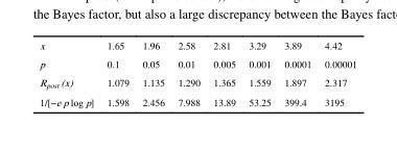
<table><tbody><tr><td>x</td><td>1.65</td><td>1.96</td><td>2.58</td><td>2.81</td><td>3.29</td><td>3.89</td><td>4.42</td></tr><tr><td>p</td><td>0.1</td><td>0.05</td><td>0.01</td><td>0.005</td><td>0.001</td><td>0.0001</td><td>0.00001</td></tr><tr><td>R<sub>post</sub> (x)</td><td>1.079</td><td>1.135</td><td>1.290</td><td>1.365</td><td>1.559</td><td>1.897</td><td>2.317</td></tr><tr><td>1/[−e p log p]</td><td>1.598</td><td>2.456</td><td>7.988</td><td>13.89</td><td>53.25</td><td>399.4</td><td>3195</td></tr></tbody></table>